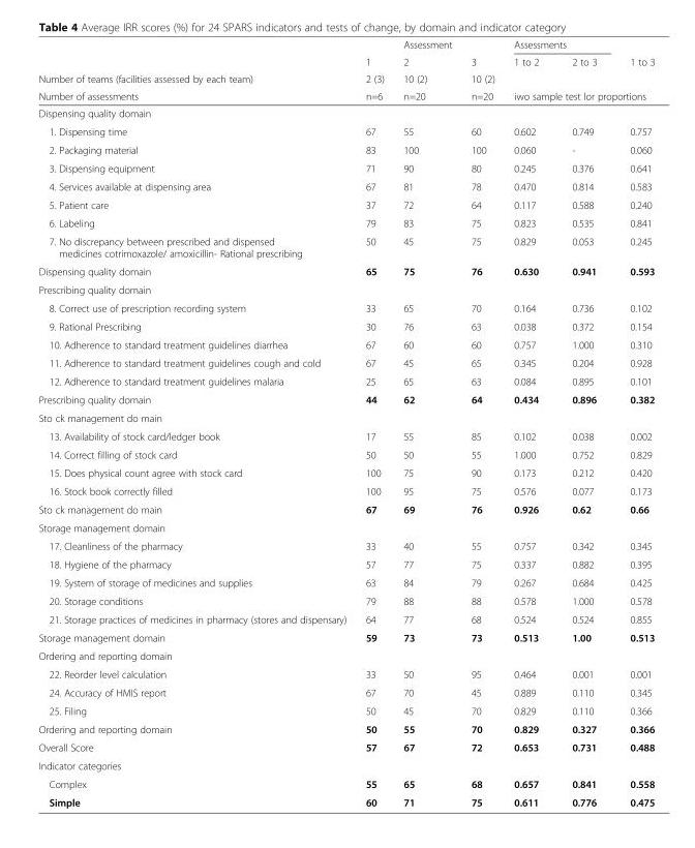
<table><thead><tr><td rowspan="4">Number of teams (facilities assessed by each team) Number of assessments</td><td rowspan="4">1 2 (3) n=6</td><td rowspan="4">Assessment 2 10 (2) n=20</td><td rowspan="4">3 10 (2) n=20</td><td colspan="2">Assessments</td><td rowspan="3">1 to 3</td></tr><tr><td rowspan="2">1 to 2</td><td rowspan="2">2 to 3</td></tr><tr></tr><tr><td colspan="3">iwo sample test lor proportions</td></tr></thead><tbody><tr><td colspan="7">Dispensing quality domain</td></tr><tr><td>1. Dispensing time</td><td>67</td><td>55</td><td>60</td><td>0.602</td><td>0.749</td><td>0.757</td></tr><tr><td>2. Packaging material</td><td>83</td><td>100</td><td>100</td><td>0.060</td><td>-</td><td>0.060</td></tr><tr><td>3. Dispensing equipment</td><td>71</td><td>90</td><td>80</td><td>0.245</td><td>0.376</td><td>0.641</td></tr><tr><td>4. Services available at dispensing area</td><td>67</td><td>81</td><td>78</td><td>0.470</td><td>0.814</td><td>0.583</td></tr><tr><td>5. Patient care</td><td>37</td><td>72</td><td>64</td><td>0.117</td><td>0.588</td><td>0.240</td></tr><tr><td>6. Labeling</td><td>79</td><td>83</td><td>75</td><td>0.823</td><td>0.535</td><td>0.841</td></tr><tr><td>7. No discrepancy between prescribed and dispensed medicines cotrimoxazole/ amoxicillin- Rational prescribing</td><td>50</td><td>45</td><td>75</td><td>0.829</td><td>0.053</td><td>0.245</td></tr><tr><td>Dispensing quality domain</td><td>65</td><td>75</td><td>76</td><td>0.630</td><td>0.941</td><td>0.593</td></tr><tr><td colspan="7">Prescribing quality domain</td></tr><tr><td>8. Correct use of prescription recording system</td><td>33</td><td>65</td><td>70</td><td>0.164</td><td>0.736</td><td>0.102</td></tr><tr><td>9. Rational Prescribing</td><td>30</td><td>76</td><td>63</td><td>0.038</td><td>0.372</td><td>0.154</td></tr><tr><td>10. Adherence to standard treatment guidelines diarrhea</td><td>67</td><td>60</td><td>60</td><td>0.757</td><td>1.000</td><td>0.310</td></tr><tr><td>11. Adherence to standard treatment guidelines cough and cold</td><td>67</td><td>45</td><td>65</td><td>0.345</td><td>0.204</td><td>0.928</td></tr><tr><td>12. Adherence to standard treatment guidelines malaria</td><td>25</td><td>65</td><td>63</td><td>0.084</td><td>0.895</td><td>0.101</td></tr><tr><td>Prescribing quality domain</td><td>44</td><td>62</td><td>64</td><td>0.434</td><td>0.896</td><td>0.382</td></tr><tr><td colspan="7">Sto ck management do main</td></tr><tr><td>13. Availability of stock card/ledger book</td><td>17</td><td>55</td><td>85</td><td>0.102</td><td>0.038</td><td>0.002</td></tr><tr><td>14. Correct filling of stock card</td><td>50</td><td>50</td><td>55</td><td>1.000</td><td>0.752</td><td>0.829</td></tr><tr><td>15. Does physical count agree with stock card</td><td>100</td><td>75</td><td>90</td><td>0.173</td><td>0.212</td><td>0.420</td></tr><tr><td>16. Stock book correctly filled</td><td>100</td><td>95</td><td>75</td><td>0.576</td><td>0.077</td><td>0.173</td></tr><tr><td>Sto ck management do main</td><td>67</td><td>69</td><td>76</td><td>0.926</td><td>0.62</td><td>0.66</td></tr><tr><td colspan="7">Storage management domain</td></tr><tr><td>17. Cleanliness of the pharmacy</td><td>33</td><td>40</td><td>55</td><td>0.757</td><td>0.342</td><td>0.345</td></tr><tr><td>18. Hygiene of the pharmacy</td><td>57</td><td>77</td><td>75</td><td>0.337</td><td>0.882</td><td>0.395</td></tr><tr><td>19. System of storage of medicines and supplies</td><td>63</td><td>84</td><td>79</td><td>0.267</td><td>0.684</td><td>0.425</td></tr><tr><td>20. Storage conditions</td><td>79</td><td>88</td><td>88</td><td>0.578</td><td>1.000</td><td>0.578</td></tr><tr><td>21. Storage practices of medicines in pharmacy (stores and dispensary)</td><td>64</td><td>77</td><td>68</td><td>0.524</td><td>0.524</td><td>0.855</td></tr><tr><td>Storage management domain</td><td>59</td><td>73</td><td>73</td><td>0.513</td><td>1.00</td><td>0.513</td></tr><tr><td colspan="7">Ordering and reporting domain</td></tr><tr><td>22. Reorder level calculation</td><td>33</td><td>50</td><td>95</td><td>0.464</td><td>0.001</td><td>0.001</td></tr><tr><td>24. Accuracy of HMIS report</td><td>67</td><td>70</td><td>45</td><td>0.889</td><td>0.110</td><td>0.345</td></tr><tr><td>25. Filing</td><td>50</td><td>45</td><td>70</td><td>0.829</td><td>0.110</td><td>0.366</td></tr><tr><td>Ordering and reporting domain</td><td>50</td><td>55</td><td>70</td><td>0.829</td><td>0.327</td><td>0.366</td></tr><tr><td>Overall Score</td><td>57</td><td>67</td><td>72</td><td>0.653</td><td>0.731</td><td>0.488</td></tr><tr><td colspan="7">Indicator categories</td></tr><tr><td>Complex</td><td>55</td><td>65</td><td>68</td><td>0.657</td><td>0.841</td><td>0.558</td></tr><tr><td>Simple</td><td>60</td><td>71</td><td>75</td><td>0.611</td><td>0.776</td><td>0.475</td></tr></tbody></table>